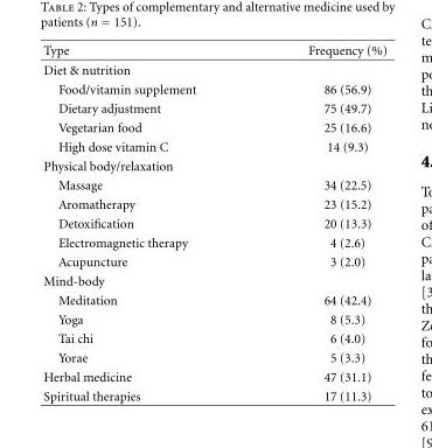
<table><thead><tr><td>Type</td><td>Frequency (%)</td></tr></thead><tbody><tr><td colspan="2">Diet &amp; nutrition</td></tr><tr><td>Food/vitamin supplement</td><td>86 (56.9)</td></tr><tr><td>Dietary adjustment</td><td>75 (49.7)</td></tr><tr><td>Vegetarian food</td><td>25 (16.6)</td></tr><tr><td>High dose vitamin C</td><td>14 (9.3)</td></tr><tr><td colspan="2">Physical body/relaxation</td></tr><tr><td>Massage</td><td>34 (22.5)</td></tr><tr><td>Aromatherapy</td><td>23 (15.2)</td></tr><tr><td>Detoxification</td><td>20 (13.3)</td></tr><tr><td>Electromagnetic therapy</td><td>4 (2.6)</td></tr><tr><td>Acupuncture</td><td>3 (2.0)</td></tr><tr><td colspan="2">Mind-body</td></tr><tr><td>Meditation</td><td>64 (42.4)</td></tr><tr><td>Yoga</td><td>8 (5.3)</td></tr><tr><td>Tai chi</td><td>6 (4.0)</td></tr><tr><td>Yorae</td><td>5 (3.3)</td></tr><tr><td>Herbal medicine</td><td>47 (31.1)</td></tr><tr><td>Spiritual therapies</td><td>17 (11.3)</td></tr></tbody></table>